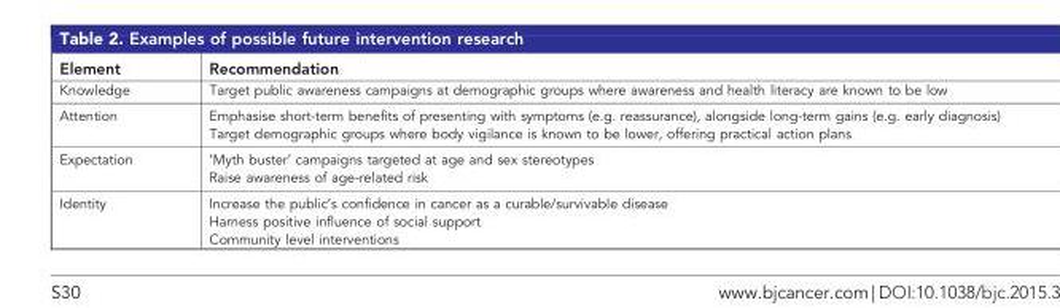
<table><thead><tr><td>Element</td><td>Recommendation</td></tr></thead><tbody><tr><td>Knowledge</td><td>Target public awareness campaigns at demographic groups where awareness and health literacy are known to be low</td></tr><tr><td rowspan="2">Attention</td><td>Emphasise short-term benefits of presenting with symptoms (e.g. reassurance), alongside long-term gains (e.g. early diagnosis)</td></tr><tr><td>Target demographic groups where body vigilance is known to be lower, offering practical action plans</td></tr><tr><td rowspan="2">Expectation</td><td>‘Myth buster’ campaigns targeted at age and sex stereotypes</td></tr><tr><td>Raise awareness of age-related risk</td></tr><tr><td rowspan="3">Identity</td><td>Increase the public’s confidence in cancer as a curable/survivable disease</td></tr><tr><td>Harness positive influence of social support</td></tr><tr><td>Community level interventions</td></tr></tbody></table>